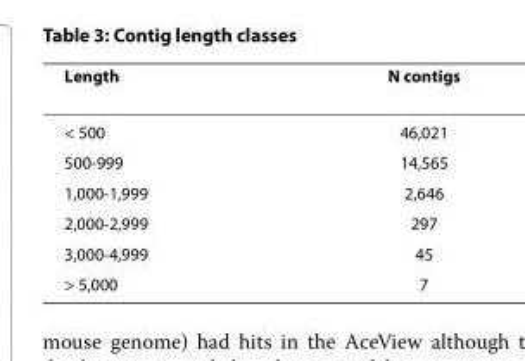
<table><thead><tr><td>Length</td><td>N contigs</td></tr></thead><tbody><tr><td>&lt; 500</td><td>46,021</td></tr><tr><td>500-999</td><td>14,565</td></tr><tr><td>1,000-1,999</td><td>2,646</td></tr><tr><td>2,000-2,999</td><td>297</td></tr><tr><td>3,000-4,999</td><td>45</td></tr><tr><td>&gt; 5,000</td><td>7</td></tr></tbody></table>